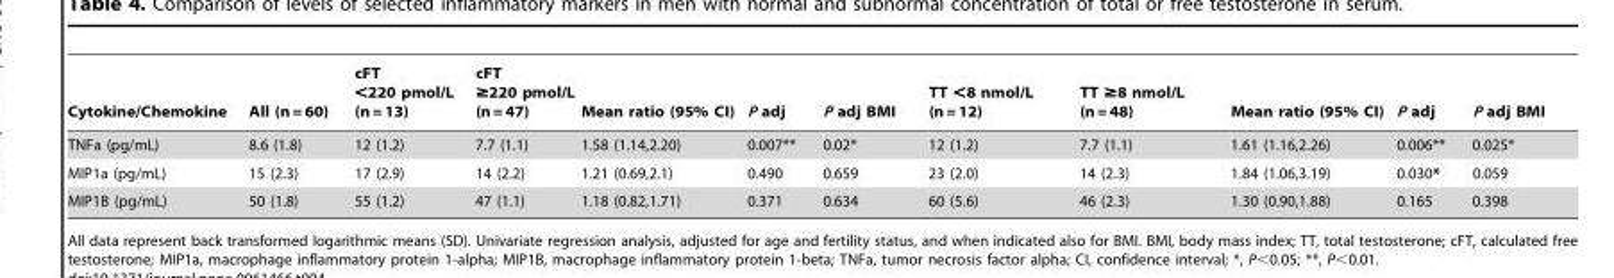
<table><thead><tr><td>Cytokine/Chemokine</td><td>All (n = 60)</td><td>cFT &lt;220 pmol/L (n = 13)</td><td>cFT ≥220 pmol/L (n = 47)</td><td>Mean ratio (95% CI)</td><td>P adj</td><td>P adj BMI</td><td>TT &lt;8 nmol/L (n = 12)</td><td>TT ≥8 nmol/L (n = 48)</td><td>Mean ratio (95% CI)</td><td>P adj</td><td>P adj BMI</td></tr></thead><tbody><tr><td>TNFa (pg/mL)</td><td>8.6 (1.8)</td><td>12 (1.2)</td><td>7.7 (1.1)</td><td>1.58 (1.14,2.20)</td><td>0.007**</td><td>0.02*</td><td>12 (1.2)</td><td>7.7 (1.1)</td><td>1.61 (1.16,2.26)</td><td>0.006**</td><td>0.025*</td></tr><tr><td>MIP1a (pg/mL)</td><td>15 (2.3)</td><td>17 (2.9)</td><td>14 (2.2)</td><td>1.21 (0.69,2.1)</td><td>0.490</td><td>0.659</td><td>23 (2.0)</td><td>14 (2.3)</td><td>1.84 (1.06,3.19)</td><td>0.030*</td><td>0.059</td></tr><tr><td>MIP1B (pg/mL)</td><td>50 (1.8)</td><td>55 (1.2)</td><td>47 (1.1)</td><td>1.18 (0.82,1.71)</td><td>0.371</td><td>0.634</td><td>60 (5.6)</td><td>46 (2.3)</td><td>1.30 (0.90,1.88)</td><td>0.165</td><td>0.398</td></tr></tbody></table>